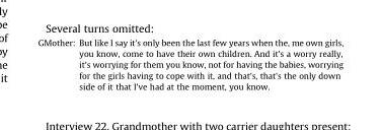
<table><tbody><tr><td>GMother:</td><td>But like I say it&#x27;s only been the last few years when the, me own girls, you know, come to have their own children. And it&#x27;s a worry really, it&#x27;s worrying for them you know, not for having the babies, worrying for the girls having to cope with it, and that&#x27;s, that&#x27;s the only down side of it that I&#x27;ve had at the moment, you know.</td></tr></tbody></table>